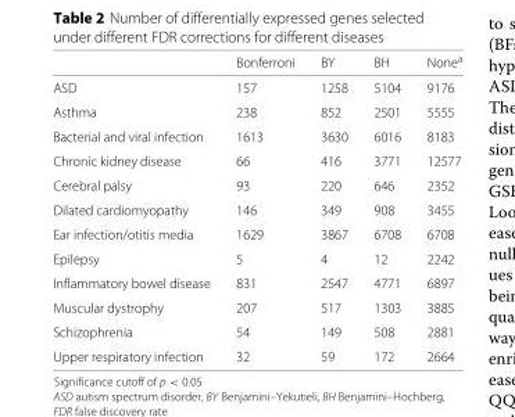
<table><thead><tr><td></td><td>Bonferroni</td><td>BY</td><td>BH</td><td>None<sup>a</sup></td></tr></thead><tbody><tr><td>ASD</td><td>157</td><td>1258</td><td>5104</td><td>9176</td></tr><tr><td>Asthma</td><td>238</td><td>852</td><td>2501</td><td>5555</td></tr><tr><td>Bacterial and viral infection</td><td>1613</td><td>3630</td><td>6016</td><td>8183</td></tr><tr><td>Chronic kidney disease</td><td>66</td><td>416</td><td>3771</td><td>12577</td></tr><tr><td>Cerebral palsy</td><td>93</td><td>220</td><td>646</td><td>2352</td></tr><tr><td>Dilated cardiomyopathy</td><td>146</td><td>349</td><td>908</td><td>3455</td></tr><tr><td>Ear infection/otitis media</td><td>1629</td><td>3867</td><td>6708</td><td>6708</td></tr><tr><td>Epilepsy</td><td>5</td><td>4</td><td>12</td><td>2242</td></tr><tr><td>Inflammatory bowel disease</td><td>831</td><td>2547</td><td>4771</td><td>6897</td></tr><tr><td>Muscular dystrophy</td><td>207</td><td>517</td><td>1303</td><td>3885</td></tr><tr><td>Schizophrenia</td><td>54</td><td>149</td><td>508</td><td>2881</td></tr><tr><td>Upper respiratory infection</td><td>32</td><td>59</td><td>172</td><td>2664</td></tr></tbody></table>